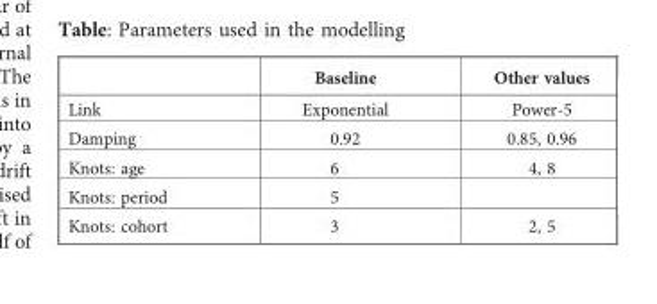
<table><thead><tr><td></td><td>Baseline</td><td>Other values</td></tr></thead><tbody><tr><td>Link</td><td>Exponential</td><td>Power-5</td></tr><tr><td>Damping</td><td>0.92</td><td>0.85, 0.96</td></tr><tr><td>Knots: age</td><td>6</td><td>4, 8</td></tr><tr><td>Knots: period</td><td>5</td><td></td></tr><tr><td>Knots: cohort</td><td>3</td><td>2, 5</td></tr></tbody></table>